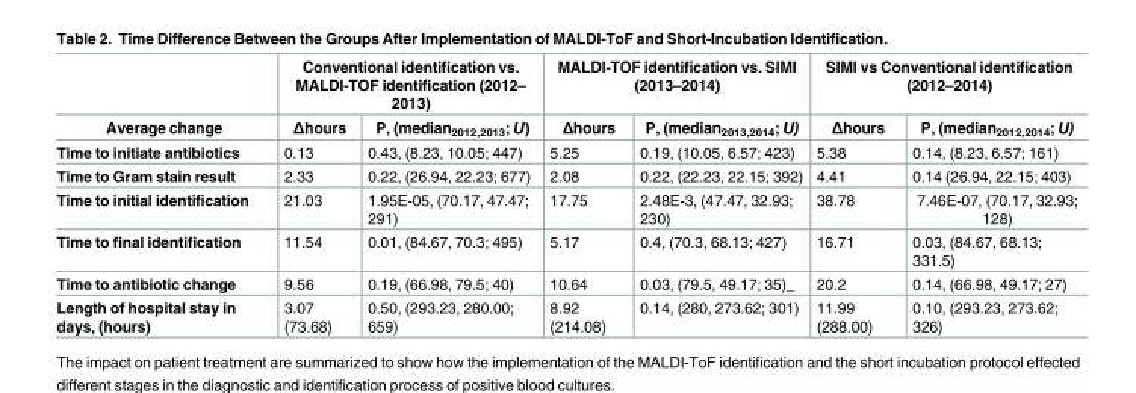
<table><thead><tr><td rowspan="2">Average change</td><td colspan="2">Conventional identification vs. MALDI-TOF identification (2012– 2013)</td><td colspan="2">MALDI-TOF identification vs. SIMI (2013–2014)</td><td colspan="2">SIMI vs Conventional identification (2012–2014)</td></tr><tr><td>Δhours</td><td>P, (median<sub>2012,2013</sub>; U)</td><td>Δhours</td><td>P, (median<sub>2013,2014</sub>; U)</td><td>Δhours</td><td>P, (median<sub>2012,2014</sub>; U)</td></tr></thead><tbody><tr><td>Time to initiate antibiotics</td><td>0.13</td><td>0.43, (8.23, 10.05; 447)</td><td>5.25</td><td>0.19, (10.05, 6.57; 423)</td><td>5.38</td><td>0.14, (8.23, 6.57; 161)</td></tr><tr><td>Time to Gram stain result</td><td>2.33</td><td>0.22, (26.94, 22.23; 677)</td><td>2.08</td><td>0.22, (22.23, 22.15; 392)</td><td>4.41</td><td>0.14 (26.94, 22.15; 403)</td></tr><tr><td>Time to initial identification</td><td>21.03</td><td>1.95E-05, (70.17, 47.47; 291)</td><td>17.75</td><td>2.48E-3, (47.47, 32.93; 230)</td><td>38.78</td><td>7.46E-07, (70.17, 32.93; 128)</td></tr><tr><td>Time to final identification</td><td>11.54</td><td>0.01, (84.67, 70.3; 495)</td><td>5.17</td><td>0.4, (70.3, 68.13; 427)</td><td>16.71</td><td>0.03, (84.67, 68.13; 331.5)</td></tr><tr><td>Time to antibiotic change</td><td>9.56</td><td>0.19, (66.98, 79.5; 40)</td><td>10.64</td><td>0.03, (79.5, 49.17; 35)_</td><td>20.2</td><td>0.14, (66.98, 49.17; 27)</td></tr><tr><td>Length of hospital stay in days, (hours)</td><td>3.07 (73.68)</td><td>0.50, (293.23, 280.00; 659)</td><td>8.92 (214.08)</td><td>0.14, (280, 273.62; 301)</td><td>11.99 (288.00)</td><td>0.10, (293.23, 273.62; 326)</td></tr></tbody></table>